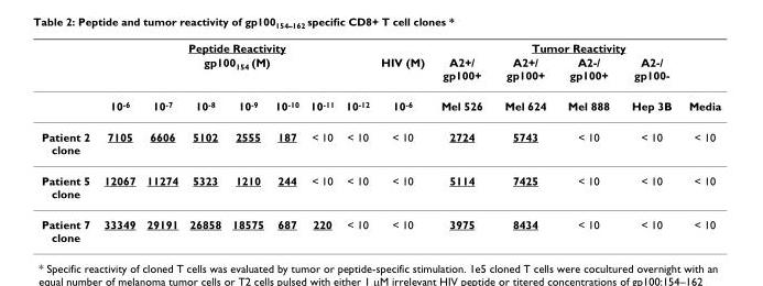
<table><thead><tr><td rowspan="3"></td><td rowspan="2" colspan="7">Peptide Reactivity gp100154 (M)</td><td rowspan="3">HIV (M) 10-6</td><td colspan="5">Tumor Reactivity</td></tr><tr><td rowspan="2">A2+/ gp100+ Mel 526</td><td rowspan="2">A2+/ gp100+ Mel 624</td><td rowspan="2">A2-/ gp100+ Mel 888</td><td rowspan="2">A2-/ gp100- Hep 3B</td><td rowspan="2">Media</td></tr><tr><td>10-6</td><td>10-7</td><td>10-8</td><td>10-9</td><td>10-10</td><td>10-11</td><td>10-12</td></tr></thead><tbody><tr><td>Patient 2 clone</td><td>7105</td><td>6606</td><td>5102</td><td>2555</td><td>187</td><td>&lt; 10</td><td>&lt; 10</td><td>&lt; 10</td><td>2724</td><td>5743</td><td>&lt; 10</td><td>&lt; 10</td><td>&lt; 10</td></tr><tr><td>Patient 5 clone</td><td>12067</td><td>11274</td><td>5323</td><td>1210</td><td>244</td><td>&lt; 10</td><td>&lt; 10</td><td>&lt; 10</td><td>5114</td><td>7425</td><td>&lt; 10</td><td>&lt; 10</td><td>&lt; 10</td></tr><tr><td>Patient 7 clone</td><td>33349</td><td>29191</td><td>26858</td><td>18575</td><td>687</td><td>220</td><td>&lt; 10</td><td>&lt; 10</td><td>3975</td><td>8434</td><td>&lt; 10</td><td>&lt; 10</td><td>&lt; 10</td></tr></tbody></table>